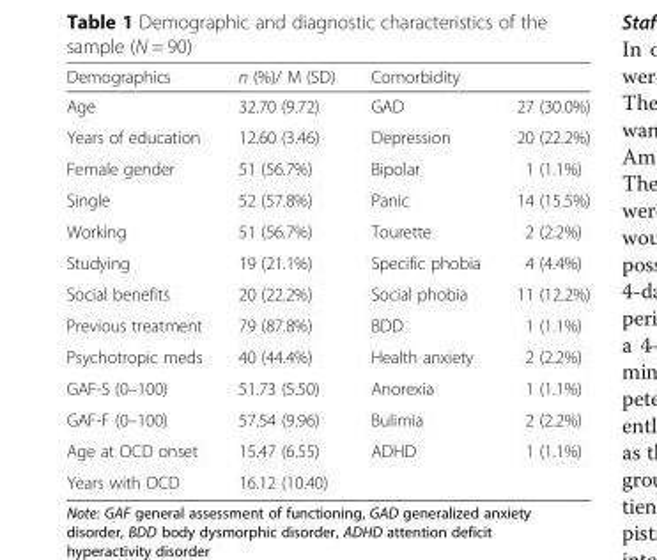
<table><thead><tr><td rowspan="2">Demographics Age</td><td rowspan="2">n (%)/ M (SD) 32.70 (9.72)</td><td colspan="2">Comorbidity</td></tr><tr><td>GAD</td><td>27 (30.0%)</td></tr></thead><tbody><tr><td>Years of education</td><td>12.60 (3.46)</td><td>Depression</td><td>20 (22.2%)</td></tr><tr><td>Female gender</td><td>51 (56.7%)</td><td>Bipolar</td><td>1 (1.1%)</td></tr><tr><td>Single</td><td>52 (57.8%)</td><td>Panic</td><td>14 (15.5%)</td></tr><tr><td>Working</td><td>51 (56.7%)</td><td>Tourette</td><td>2 (2.2%)</td></tr><tr><td>Studying</td><td>19 (21.1%)</td><td>Specific phobia</td><td>4 (4.4%)</td></tr><tr><td>Social benefits</td><td>20 (22.2%)</td><td>Social phobia</td><td>11 (12.2%)</td></tr><tr><td>Previous treatment</td><td>79 (87.8%)</td><td>BDD</td><td>1 (1.1%)</td></tr><tr><td>Psychotropic meds</td><td>40 (44.4%)</td><td>Health anxiety</td><td>2 (2.2%)</td></tr><tr><td>GAF-S (0–100)</td><td>51.73 (5.50)</td><td>Anorexia</td><td>1 (1.1%)</td></tr><tr><td>GAF-F (0–100)</td><td>57.54 (9.96)</td><td>Bulimia</td><td>2 (2.2%)</td></tr><tr><td>Age at OCD onset</td><td>15.47 (6.55)</td><td>ADHD</td><td>1 (1.1%)</td></tr><tr><td>Years with OCD</td><td>16.12 (10.40)</td><td></td><td></td></tr></tbody></table>